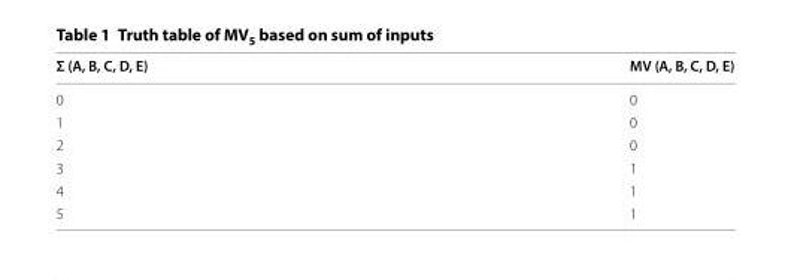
<table><thead><tr><td>Σ (A, B, C, D, E)</td><td>MV (A, B, C, D, E)</td></tr></thead><tbody><tr><td>0</td><td>0</td></tr><tr><td>1</td><td>0</td></tr><tr><td>2</td><td>0</td></tr><tr><td>3</td><td>1</td></tr><tr><td>4</td><td>1</td></tr><tr><td>5</td><td>1</td></tr></tbody></table>